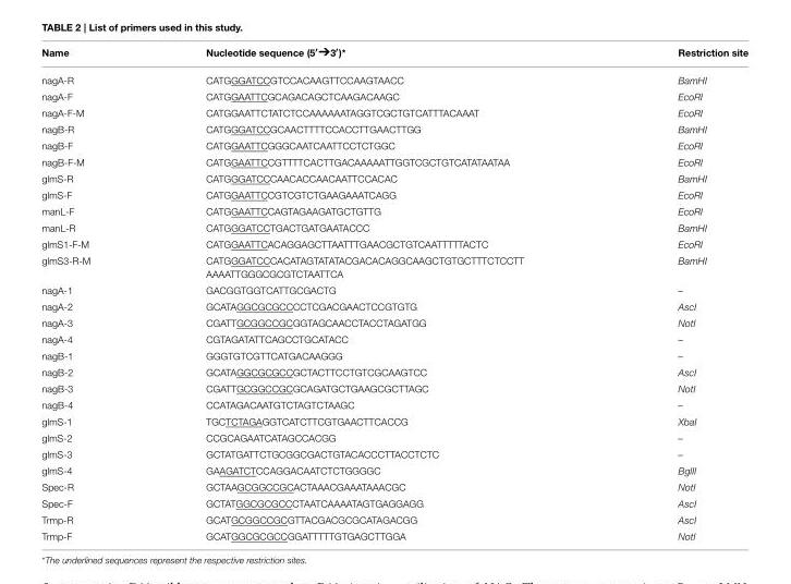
<table><thead><tr><td>Name</td><td>Nucleotide sequence (5′:3′)*</td><td>Restriction site</td></tr></thead><tbody><tr><td>nagA-R</td><td>CATGGGATCCGTCCACAAGTTCCAAGTAACC</td><td>BamHI</td></tr><tr><td>nagA-F</td><td>CATGGAATTCGCAGACAGCTCAAGACAAGC</td><td>EcoRI</td></tr><tr><td>nagA-F-M</td><td>CATGGAATTCTATCTCCAAAAAATAGGTCGCTGTCATTTACAAAT</td><td>EcoRI</td></tr><tr><td>nagB-R</td><td>CATGGGATCCGCAACTTTTCCACCTTGAACTTGG</td><td>BamHI</td></tr><tr><td>nagB-F</td><td>CATGGAATTCGGGCAATCAATTCCTCTGGC</td><td>EcoRI</td></tr><tr><td>nagB-F-M</td><td>CATGGAATTCCGTTTTCACTTGACAAAAATTGGTCGCTGTCATATAATAA</td><td>EcoRI</td></tr><tr><td>glmS-R</td><td>CATGGGATCCCAACACCAACAATTCCACAC</td><td>BamHI</td></tr><tr><td>glmS-F</td><td>CATGGAATTCCGTCGTCTGAAGAAATCAGG</td><td>EcoRI</td></tr><tr><td>manL-F</td><td>CATGGAATTCCAGTAGAAGATGCTGTTG</td><td>EcoRI</td></tr><tr><td>manL-R</td><td>CATGGGATCCTGACTGATGAATACCC</td><td>BamHI</td></tr><tr><td>glmS1-F-M</td><td>CATGGAATTCACAGGAGCTTAATTTGAACGCTGTCAATTTTTACTC</td><td>EcoRI</td></tr><tr><td>glmS3-R-M</td><td>CATGGGATCCCACATAGTATATACGACACAGGCAAGCTGTGCTTTCTCCTT AAAATTGGGCGCGTCTAATTCA</td><td>BamHI</td></tr><tr><td>nagA-1</td><td>GACGGTGGTCATTGCGACTG</td><td>–</td></tr><tr><td>nagA-2</td><td>GCATAGGCGCGCCCCTCGACGAACTCCGTGTG</td><td>AscI</td></tr><tr><td>nagA-3</td><td>CGATTGCGGCCGCGGTAGCAACCTACCTAGATGG</td><td>NotI</td></tr><tr><td>nagA-4</td><td>CGTAGATATTCAGCCTGCATACC</td><td>–</td></tr><tr><td>nagB-1</td><td>GGGTGTCGTTCATGACAAGGG</td><td>–</td></tr><tr><td>nagB-2</td><td>GCATAGGCGCGCCGCTACTTCCTGTCGCAAGTCC</td><td>AscI</td></tr><tr><td>nagB-3</td><td>CGATTGCGGCCGCGCAGATGCTGAAGCGCTTAGC</td><td>NotI</td></tr><tr><td>nagB-4</td><td>CCATAGACAATGTCTAGTCTAAGC</td><td>–</td></tr><tr><td>glmS-1</td><td>TGCTCTAGAGGTCATCTTCGTGAACTTCACCG</td><td>XbaI</td></tr><tr><td>glmS-2</td><td>CCGCAGAATCATAGCCACGG</td><td>–</td></tr><tr><td>glmS-3</td><td>GCTATGATTCTGCGGCGACTGTACACCCTTACCTCTC</td><td>–</td></tr><tr><td>glmS-4</td><td>GAAGATCTCCAGGACAATCTCTGGGGC</td><td>BglII</td></tr><tr><td>Spec-R</td><td>GCTAAGCGGCCGCACTAAACGAAATAAACGC</td><td>NotI</td></tr><tr><td>Spec-F</td><td>GCTATGGCGCGCCCTAATCAAAATAGTGAGGAGG</td><td>AscI</td></tr><tr><td>Trmp-R</td><td>GCATGCGGCCGCGTTACGACGCGCATAGACGG</td><td>AscI</td></tr><tr><td>Trmp-F</td><td>GCATGGCGCGCCGGATTTTTGTGAGCTTGGA</td><td>NotI</td></tr></tbody></table>